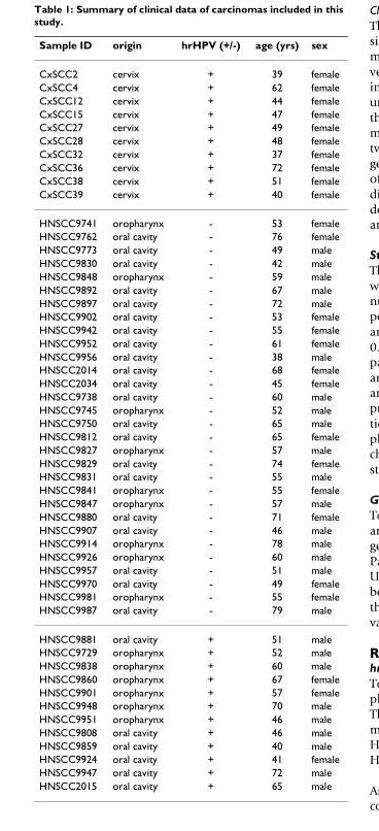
<table><thead><tr><td>Sample ID</td><td>origin</td><td>hrHPV (+/-)</td><td>age (yrs)</td><td>sex</td></tr></thead><tbody><tr><td>CxSCC2</td><td>cervix</td><td>+</td><td>39</td><td>female</td></tr><tr><td>CxSCC4</td><td>cervix</td><td>+</td><td>62</td><td>female</td></tr><tr><td>CxSCC12</td><td>cervix</td><td>+</td><td>44</td><td>female</td></tr><tr><td>CxSCC15</td><td>cervix</td><td>+</td><td>47</td><td>female</td></tr><tr><td>CxSCC27</td><td>cervix</td><td>+</td><td>49</td><td>female</td></tr><tr><td>CxSCC28</td><td>cervix</td><td>+</td><td>48</td><td>female</td></tr><tr><td>CxSCC32</td><td>cervix</td><td>+</td><td>37</td><td>female</td></tr><tr><td>CxSCC36</td><td>cervix</td><td>+</td><td>72</td><td>female</td></tr><tr><td>CxSCC38</td><td>cervix</td><td>+</td><td>51</td><td>female</td></tr><tr><td>CxSCC39</td><td>cervix</td><td>+</td><td>40</td><td>female</td></tr><tr><td>HNSCC9741</td><td>oropharynx</td><td>-</td><td>53</td><td>female</td></tr><tr><td>HNSCC9762</td><td>oral cavity</td><td>-</td><td>76</td><td>female</td></tr><tr><td>HNSCC9773</td><td>oral cavity</td><td>-</td><td>49</td><td>male</td></tr><tr><td>HNSCC9830</td><td>oral cavity</td><td>-</td><td>42</td><td>male</td></tr><tr><td>HNSCC9848</td><td>oropharynx</td><td>-</td><td>59</td><td>male</td></tr><tr><td>HNSCC9892</td><td>oral cavity</td><td>-</td><td>67</td><td>male</td></tr><tr><td>HNSCC9897</td><td>oral cavity</td><td>-</td><td>72</td><td>male</td></tr><tr><td>HNSCC9902</td><td>oral cavity</td><td>-</td><td>53</td><td>female</td></tr><tr><td>HNSCC9942</td><td>oral cavity</td><td>-</td><td>55</td><td>female</td></tr><tr><td>HNSCC9952</td><td>oral cavity</td><td>-</td><td>61</td><td>female</td></tr><tr><td>HNSCC9956</td><td>oral cavity</td><td>-</td><td>38</td><td>male</td></tr><tr><td>HNSCC2014</td><td>oral cavity</td><td>-</td><td>68</td><td>female</td></tr><tr><td>HNSCC2034</td><td>oral cavity</td><td>-</td><td>45</td><td>female</td></tr><tr><td>HNSCC9738</td><td>oral cavity</td><td>-</td><td>60</td><td>male</td></tr><tr><td>HNSCC9745</td><td>oropharynx</td><td>-</td><td>52</td><td>male</td></tr><tr><td>HNSCC9750</td><td>oral cavity</td><td>-</td><td>65</td><td>male</td></tr><tr><td>HNSCC9812</td><td>oral cavity</td><td>-</td><td>65</td><td>female</td></tr><tr><td>HNSCC9827</td><td>oropharynx</td><td>-</td><td>57</td><td>male</td></tr><tr><td>HNSCC9829</td><td>oral cavity</td><td>-</td><td>74</td><td>female</td></tr><tr><td>HNSCC9831</td><td>oral cavity</td><td>-</td><td>55</td><td>male</td></tr><tr><td>HNSCC9841</td><td>oropharynx</td><td>-</td><td>55</td><td>female</td></tr><tr><td>HNSCC9847</td><td>oropharynx</td><td>-</td><td>57</td><td>male</td></tr><tr><td>HNSCC9880</td><td>oral cavity</td><td>-</td><td>71</td><td>female</td></tr><tr><td>HNSCC9907</td><td>oral cavity</td><td>-</td><td>46</td><td>male</td></tr><tr><td>HNSCC9914</td><td>oropharynx</td><td>-</td><td>78</td><td>male</td></tr><tr><td>HNSCC9926</td><td>oropharynx</td><td>-</td><td>60</td><td>male</td></tr><tr><td>HNSCC9957</td><td>oral cavity</td><td>-</td><td>51</td><td>male</td></tr><tr><td>HNSCC9970</td><td>oral cavity</td><td>-</td><td>49</td><td>female</td></tr><tr><td>HNSCC9981</td><td>oropharynx</td><td>-</td><td>55</td><td>female</td></tr><tr><td>HNSCC9987</td><td>oral cavity</td><td>-</td><td>79</td><td>male</td></tr><tr><td>HNSCC9881</td><td>oral cavity</td><td>+</td><td>51</td><td>male</td></tr><tr><td>HNSCC9729</td><td>oropharynx</td><td>+</td><td>52</td><td>male</td></tr><tr><td>HNSCC9838</td><td>oropharynx</td><td>+</td><td>60</td><td>male</td></tr><tr><td>HNSCC9860</td><td>oropharynx</td><td>+</td><td>67</td><td>female</td></tr><tr><td>HNSCC9901</td><td>oropharynx</td><td>+</td><td>57</td><td>female</td></tr><tr><td>HNSCC9948</td><td>oropharynx</td><td>+</td><td>70</td><td>male</td></tr><tr><td>HNSCC9951</td><td>oropharynx</td><td>+</td><td>46</td><td>male</td></tr><tr><td>HNSCC9808</td><td>oral cavity</td><td>+</td><td>46</td><td>male</td></tr><tr><td>HNSCC9859</td><td>oral cavity</td><td>+</td><td>40</td><td>male</td></tr><tr><td>HNSCC9924</td><td>oral cavity</td><td>+</td><td>41</td><td>female</td></tr><tr><td>HNSCC9947</td><td>oral cavity</td><td>+</td><td>72</td><td>male</td></tr><tr><td>HNSCC2015</td><td>oral cavity</td><td>+</td><td>65</td><td>male</td></tr></tbody></table>